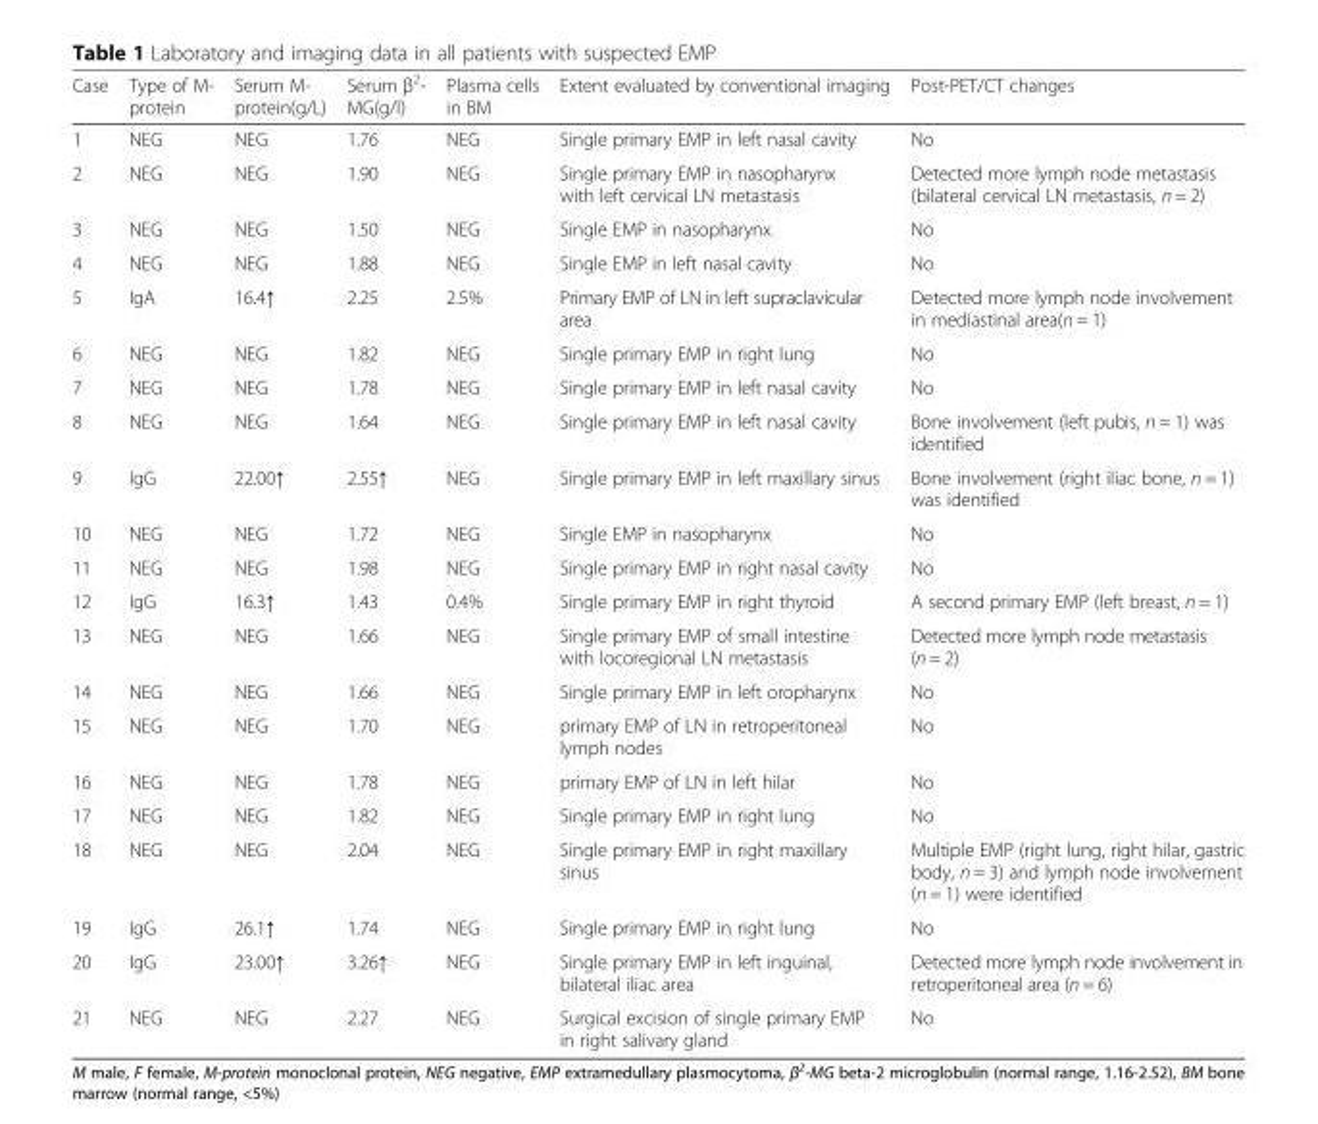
<table><thead><tr><td>Case</td><td>Type of M- protein</td><td>Serum M- protein(g/L)</td><td>Serum β<sup>2</sup>- MG(g/l)</td><td>Plasma cells in BM</td><td>Extent evaluated by conventional imaging</td><td>Post-PET/CT changes</td></tr></thead><tbody><tr><td>1</td><td>NEG</td><td>NEG</td><td>1.76</td><td>NEG</td><td>Single primary EMP in left nasal cavity</td><td>No</td></tr><tr><td>2</td><td>NEG</td><td>NEG</td><td>1.90</td><td>NEG</td><td>Single primary EMP in nasopharynx with left cervical LN metastasis</td><td>Detected more lymph node metastasis (bilateral cervical LN metastasis, n = 2)</td></tr><tr><td>3</td><td>NEG</td><td>NEG</td><td>1.50</td><td>NEG</td><td>Single EMP in nasopharynx</td><td>No</td></tr><tr><td>4</td><td>NEG</td><td>NEG</td><td>1.88</td><td>NEG</td><td>Single EMP in left nasal cavity</td><td>No</td></tr><tr><td>5</td><td>IgA</td><td>16.4↑</td><td>2.25</td><td>2.5%</td><td>Primary EMP of LN in left supraclavicular area</td><td>Detected more lymph node involvement in mediastinal area(n = 1)</td></tr><tr><td>6</td><td>NEG</td><td>NEG</td><td>1.82</td><td>NEG</td><td>Single primary EMP in right lung</td><td>No</td></tr><tr><td>7</td><td>NEG</td><td>NEG</td><td>1.78</td><td>NEG</td><td>Single primary EMP in left nasal cavity</td><td>No</td></tr><tr><td>8</td><td>NEG</td><td>NEG</td><td>1.64</td><td>NEG</td><td>Single primary EMP in left nasal cavity</td><td>Bone involvement (left pubis, n = 1) was identified</td></tr><tr><td>9</td><td>IgG</td><td>22.00↑</td><td>2.55↑</td><td>NEG</td><td>Single primary EMP in left maxillary sinus</td><td>Bone involvement (right iliac bone, n = 1) was identified</td></tr><tr><td>10</td><td>NEG</td><td>NEG</td><td>1.72</td><td>NEG</td><td>Single EMP in nasopharynx</td><td>No</td></tr><tr><td>11</td><td>NEG</td><td>NEG</td><td>1.98</td><td>NEG</td><td>Single primary EMP in right nasal cavity</td><td>No</td></tr><tr><td>12</td><td>IgG</td><td>16.3↑</td><td>1.43</td><td>0.4%</td><td>Single primary EMP in right thyroid</td><td>A second primary EMP (left breast, n = 1)</td></tr><tr><td>13</td><td>NEG</td><td>NEG</td><td>1.66</td><td>NEG</td><td>Single primary EMP of small intestine with locoregional LN metastasis</td><td>Detected more lymph node metastasis (n = 2)</td></tr><tr><td>14</td><td>NEG</td><td>NEG</td><td>1.66</td><td>NEG</td><td>Single primary EMP in left oropharynx</td><td>No</td></tr><tr><td>15</td><td>NEG</td><td>NEG</td><td>1.70</td><td>NEG</td><td>primary EMP of LN in retroperitoneal lymph nodes</td><td>No</td></tr><tr><td>16</td><td>NEG</td><td>NEG</td><td>1.78</td><td>NEG</td><td>primary EMP of LN in left hilar</td><td>No</td></tr><tr><td>17</td><td>NEG</td><td>NEG</td><td>1.82</td><td>NEG</td><td>Single primary EMP in right lung</td><td>No</td></tr><tr><td>18</td><td>NEG</td><td>NEG</td><td>2.04</td><td>NEG</td><td>Single primary EMP in right maxillary sinus</td><td>Multiple EMP (right lung, right hilar, gastric body, n = 3) and lymph node involvement (n = 1) were identified</td></tr><tr><td>19</td><td>IgG</td><td>26.1↑</td><td>1.74</td><td>NEG</td><td>Single primary EMP in right lung</td><td>No</td></tr><tr><td>20</td><td>IgG</td><td>23.00↑</td><td>3.26↑</td><td>NEG</td><td>Single primary EMP in left inguinal, bilateral iliac area</td><td>Detected more lymph node involvement in retroperitoneal area (n = 6)</td></tr><tr><td>21</td><td>NEG</td><td>NEG</td><td>2.27</td><td>NEG</td><td>Surgical excision of single primary EMP in right salivary gland</td><td>No</td></tr></tbody></table>